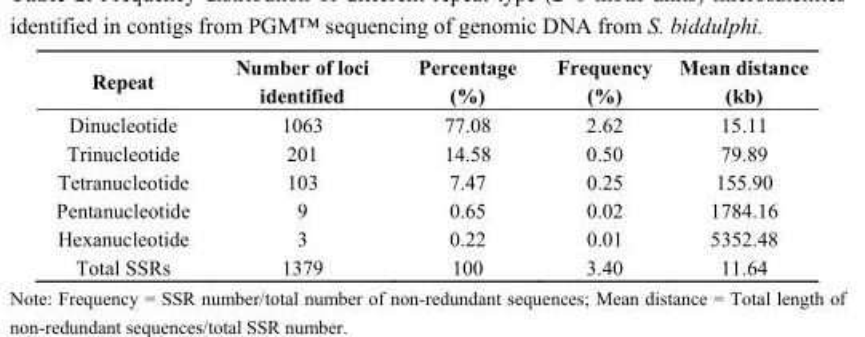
<table><thead><tr><td>Repeat</td><td>Number of loci identified</td><td>Percentage (%)</td><td>Frequency (%)</td><td>Mean distance (kb)</td></tr></thead><tbody><tr><td>Dinucleotide</td><td>1063</td><td>77.08</td><td>2.62</td><td>15.11</td></tr><tr><td>Trinucleotide</td><td>201</td><td>14.58</td><td>0.50</td><td>79.89</td></tr><tr><td>Tetranucleotide</td><td>103</td><td>7.47</td><td>0.25</td><td>155.90</td></tr><tr><td>Pentanucleotide</td><td>9</td><td>0.65</td><td>0.02</td><td>1784.16</td></tr><tr><td>Hexanucleotide</td><td>3</td><td>0.22</td><td>0.01</td><td>5352.48</td></tr><tr><td>Total SSRs</td><td>1379</td><td>100</td><td>3.40</td><td>11.64</td></tr></tbody></table>